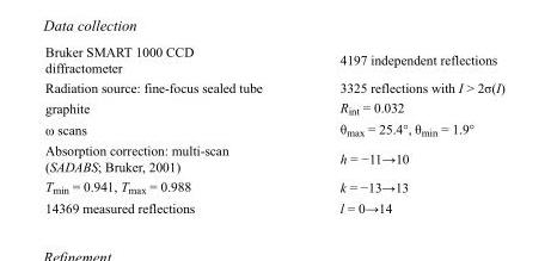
<table><tbody><tr><td>Bruker SMART 1000 CCD diffractometer</td><td>4197 independent reflections</td></tr><tr><td>Radiation source: fine-focus sealed tube</td><td>3325 reflections with I &gt; 2σ(I)</td></tr><tr><td>graphite</td><td>R<sub>int</sub> = 0.032</td></tr><tr><td>ω scans</td><td>θ<sub>max</sub> = 25.4°, θ<sub>min</sub> = 1.9°</td></tr><tr><td>Absorption correction: multi-scan (SADABS; Bruker, 2001)</td><td>h = −11→10</td></tr><tr><td>T<sub>min</sub> = 0.941, T<sub>max</sub> = 0.988</td><td>k = −13→13</td></tr><tr><td>14369 measured reflections</td><td>l = 0→14</td></tr></tbody></table>